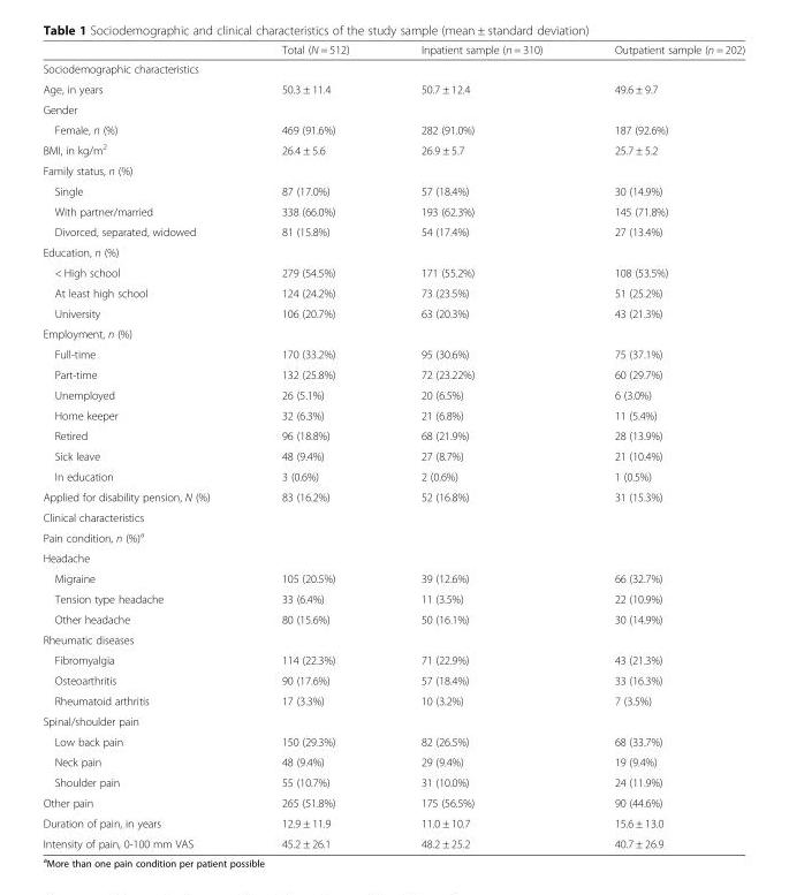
<table><thead><tr><td></td><td>Total (N = 512)</td><td>Inpatient sample (n = 310)</td><td>Outpatient sample (n = 202)</td></tr></thead><tbody><tr><td colspan="4">Sociodemographic characteristics</td></tr><tr><td>Age, in years</td><td>50.3 ± 11.4</td><td>50.7 ± 12.4</td><td>49.6 ± 9.7</td></tr><tr><td colspan="4">Gender</td></tr><tr><td>Female, n (%)</td><td>469 (91.6%)</td><td>282 (91.0%)</td><td>187 (92.6%)</td></tr><tr><td>BMI, in kg/m<sup>2</sup></td><td>26.4 ± 5.6</td><td>26.9 ± 5.7</td><td>25.7 ± 5.2</td></tr><tr><td colspan="4">Family status, n (%)</td></tr><tr><td>Single</td><td>87 (17.0%)</td><td>57 (18.4%)</td><td>30 (14.9%)</td></tr><tr><td>With partner/married</td><td>338 (66.0%)</td><td>193 (62.3%)</td><td>145 (71.8%)</td></tr><tr><td>Divorced, separated, widowed</td><td>81 (15.8%)</td><td>54 (17.4%)</td><td>27 (13.4%)</td></tr><tr><td colspan="4">Education, n (%)</td></tr><tr><td>&lt; High school</td><td>279 (54.5%)</td><td>171 (55.2%)</td><td>108 (53.5%)</td></tr><tr><td>At least high school</td><td>124 (24.2%)</td><td>73 (23.5%)</td><td>51 (25.2%)</td></tr><tr><td>University</td><td>106 (20.7%)</td><td>63 (20.3%)</td><td>43 (21.3%)</td></tr><tr><td colspan="4">Employment, n (%)</td></tr><tr><td>Full-time</td><td>170 (33.2%)</td><td>95 (30.6%)</td><td>75 (37.1%)</td></tr><tr><td>Part-time</td><td>132 (25.8%)</td><td>72 (23.22%)</td><td>60 (29.7%)</td></tr><tr><td>Unemployed</td><td>26 (5.1%)</td><td>20 (6.5%)</td><td>6 (3.0%)</td></tr><tr><td>Home keeper</td><td>32 (6.3%)</td><td>21 (6.8%)</td><td>11 (5.4%)</td></tr><tr><td>Retired</td><td>96 (18.8%)</td><td>68 (21.9%)</td><td>28 (13.9%)</td></tr><tr><td>Sick leave</td><td>48 (9.4%)</td><td>27 (8.7%)</td><td>21 (10.4%)</td></tr><tr><td>In education</td><td>3 (0.6%)</td><td>2 (0.6%)</td><td>1 (0.5%)</td></tr><tr><td>Applied for disability pension, N (%)</td><td>83 (16.2%)</td><td>52 (16.8%)</td><td>31 (15.3%)</td></tr><tr><td colspan="4">Clinical characteristics</td></tr><tr><td colspan="4">Pain condition, n (%)<sup>a</sup></td></tr><tr><td colspan="4">Headache</td></tr><tr><td>Migraine</td><td>105 (20.5%)</td><td>39 (12.6%)</td><td>66 (32.7%)</td></tr><tr><td>Tension type headache</td><td>33 (6.4%)</td><td>11 (3.5%)</td><td>22 (10.9%)</td></tr><tr><td>Other headache</td><td>80 (15.6%)</td><td>50 (16.1%)</td><td>30 (14.9%)</td></tr><tr><td colspan="4">Rheumatic diseases</td></tr><tr><td>Fibromyalgia</td><td>114 (22.3%)</td><td>71 (22.9%)</td><td>43 (21.3%)</td></tr><tr><td>Osteoarthritis</td><td>90 (17.6%)</td><td>57 (18.4%)</td><td>33 (16.3%)</td></tr><tr><td>Rheumatoid arthritis</td><td>17 (3.3%)</td><td>10 (3.2%)</td><td>7 (3.5%)</td></tr><tr><td colspan="4">Spinal/shoulder pain</td></tr><tr><td>Low back pain</td><td>150 (29.3%)</td><td>82 (26.5%)</td><td>68 (33.7%)</td></tr><tr><td>Neck pain</td><td>48 (9.4%)</td><td>29 (9.4%)</td><td>19 (9.4%)</td></tr><tr><td>Shoulder pain</td><td>55 (10.7%)</td><td>31 (10.0%)</td><td>24 (11.9%)</td></tr><tr><td>Other pain</td><td>265 (51.8%)</td><td>175 (56.5%)</td><td>90 (44.6%)</td></tr><tr><td>Duration of pain, in years</td><td>12.9 ± 11.9</td><td>11.0 ± 10.7</td><td>15.6 ± 13.0</td></tr><tr><td>Intensity of pain, 0-100 mm VAS</td><td>45.2 ± 26.1</td><td>48.2 ± 25.2</td><td>40.7 ± 26.9</td></tr></tbody></table>